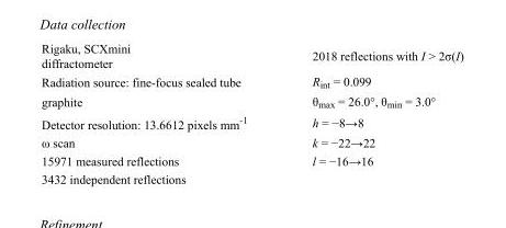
<table><tbody><tr><td>Rigaku, SCXmini diffractometer</td><td>2018 reflections with I &gt; 2σ(I)</td></tr><tr><td>Radiation source: fine-focus sealed tube</td><td>R<sub>int</sub> = 0.099</td></tr><tr><td>graphite</td><td>θ<sub>max</sub> = 26.0°, θ<sub>min</sub> = 3.0°</td></tr><tr><td>Detector resolution: 13.6612 pixels mm<sup>-1</sup></td><td>h = −8→8</td></tr><tr><td>ω scan</td><td>k = −22→22</td></tr><tr><td>15971 measured reflections</td><td>l = −16→16</td></tr><tr><td>3432 independent reflections</td><td></td></tr></tbody></table>